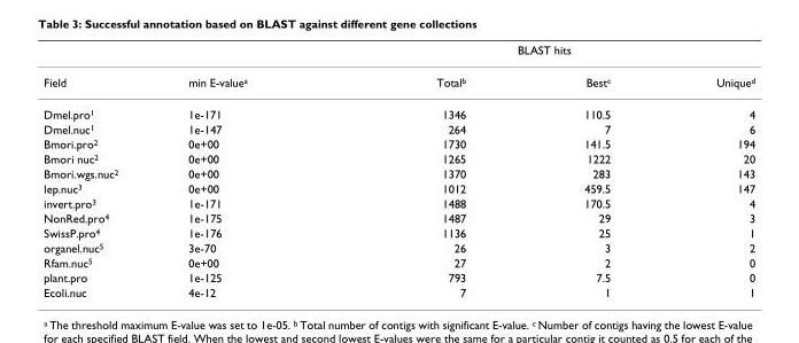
<table><thead><tr><td rowspan="2">Field</td><td rowspan="2">min E-value<sup>a</sup></td><td colspan="3">BLAST hits</td></tr><tr><td>Total<sup>b</sup></td><td>Best<sup>c</sup></td><td>Unique<sup>d</sup></td></tr></thead><tbody><tr><td>Dmel.pro<sup>1</sup></td><td>1e-171</td><td>1346</td><td>110.5</td><td>4</td></tr><tr><td>Dmel.nuc<sup>1</sup></td><td>1e-147</td><td>264</td><td>7</td><td>6</td></tr><tr><td>Bmori.pro<sup>2</sup></td><td>0e+00</td><td>1730</td><td>141.5</td><td>194</td></tr><tr><td>Bmori nuc<sup>2</sup></td><td>0e+00</td><td>1265</td><td>1222</td><td>20</td></tr><tr><td>Bmori.wgs.nuc<sup>2</sup></td><td>0e+00</td><td>1370</td><td>283</td><td>143</td></tr><tr><td>lep.nuc<sup>3</sup></td><td>0e+00</td><td>1012</td><td>459.5</td><td>147</td></tr><tr><td>invert.pro<sup>3</sup></td><td>1e-171</td><td>1488</td><td>170.5</td><td>4</td></tr><tr><td>NonRed.pro<sup>4</sup></td><td>1e-175</td><td>1487</td><td>29</td><td>3</td></tr><tr><td>SwissP.pro<sup>4</sup></td><td>1e-176</td><td>1136</td><td>25</td><td>1</td></tr><tr><td>organel.nuc<sup>5</sup></td><td>3e-70</td><td>26</td><td>3</td><td>2</td></tr><tr><td>Rfam.nuc<sup>5</sup></td><td>0e+00</td><td>27</td><td>2</td><td>0</td></tr><tr><td>plant.pro</td><td>1e-125</td><td>793</td><td>7.5</td><td>0</td></tr><tr><td>Ecoli.nuc</td><td>4e-12</td><td>7</td><td>1</td><td>1</td></tr></tbody></table>